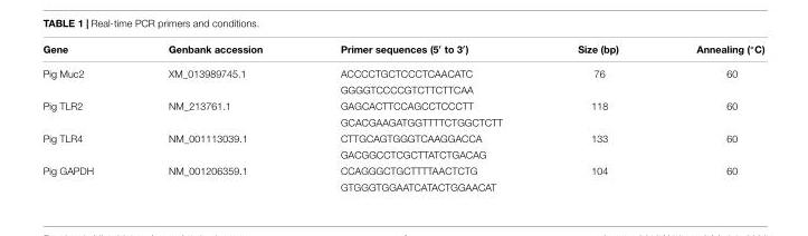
<table><thead><tr><td>Gene</td><td>Genbank accession</td><td>Primer sequences (5′ to 3′)</td><td>Size (bp)</td><td>Annealing (◦C)</td></tr></thead><tbody><tr><td rowspan="2">Pig Muc2</td><td>XM_013989745.1</td><td>ACCCCTGCTCCCTCAACATC</td><td>76</td><td>60</td></tr><tr><td></td><td>GGGGTCCCCGTCTTCTTCAA</td><td></td><td></td></tr><tr><td rowspan="2">Pig TLR2</td><td>NM_213761.1</td><td>GAGCACTTCCAGCCTCCCTT</td><td>118</td><td>60</td></tr><tr><td></td><td>GCACGAAGATGGTTTTCTGGCTCTT</td><td></td><td></td></tr><tr><td rowspan="2">Pig TLR4</td><td>NM_001113039.1</td><td>CTTGCAGTGGGTCAAGGACCA</td><td>133</td><td>60</td></tr><tr><td></td><td>GACGGCCTCGCTTATCTGACAG</td><td></td><td></td></tr><tr><td rowspan="2">Pig GAPDH</td><td>NM_001206359.1</td><td>CCAGGGCTGCTTTTAACTCTG</td><td>104</td><td>60</td></tr><tr><td></td><td>GTGGGTGGAATCATACTGGAACAT</td><td></td><td></td></tr></tbody></table>